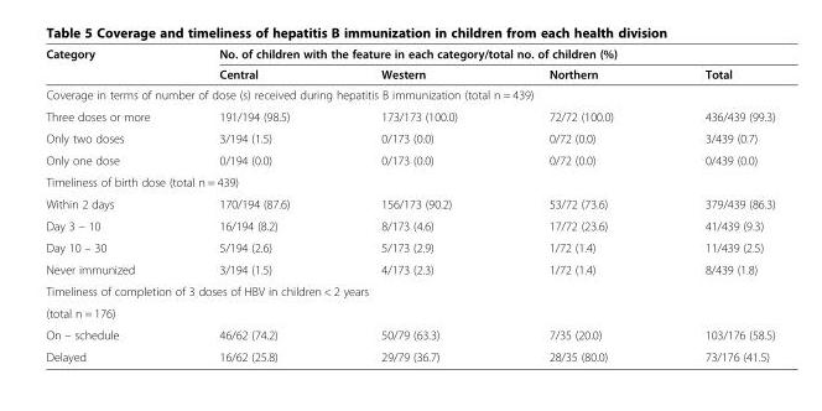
<table><thead><tr><td rowspan="2">Category</td><td colspan="4">No. of children with the feature in each category/total no. of children (%)</td></tr><tr><td>Central</td><td>Western</td><td>Northern</td><td>Total</td></tr></thead><tbody><tr><td colspan="5">Coverage in terms of number of dose (s) received during hepatitis B immunization (total n = 439)</td></tr><tr><td>Three doses or more</td><td>191/194 (98.5)</td><td>173/173 (100.0)</td><td>72/72 (100.0)</td><td>436/439 (99.3)</td></tr><tr><td>Only two doses</td><td>3/194 (1.5)</td><td>0/173 (0.0)</td><td>0/72 (0.0)</td><td>3/439 (0.7)</td></tr><tr><td>Only one dose</td><td>0/194 (0.0)</td><td>0/173 (0.0)</td><td>0/72 (0.0)</td><td>0/439 (0.0)</td></tr><tr><td colspan="5">Timeliness of birth dose (total n = 439)</td></tr><tr><td>Within 2 days</td><td>170/194 (87.6)</td><td>156/173 (90.2)</td><td>53/72 (73.6)</td><td>379/439 (86.3)</td></tr><tr><td>Day 3 – 10</td><td>16/194 (8.2)</td><td>8/173 (4.6)</td><td>17/72 (23.6)</td><td>41/439 (9.3)</td></tr><tr><td>Day 10 – 30</td><td>5/194 (2.6)</td><td>5/173 (2.9)</td><td>1/72 (1.4)</td><td>11/439 (2.5)</td></tr><tr><td>Never immunized</td><td>3/194 (1.5)</td><td>4/173 (2.3)</td><td>1/72 (1.4)</td><td>8/439 (1.8)</td></tr><tr><td colspan="5">Timeliness of completion of 3 doses of HBV in children &lt; 2 years</td></tr><tr><td colspan="5">(total n = 176)</td></tr><tr><td>On – schedule</td><td>46/62 (74.2)</td><td>50/79 (63.3)</td><td>7/35 (20.0)</td><td>103/176 (58.5)</td></tr><tr><td>Delayed</td><td>16/62 (25.8)</td><td>29/79 (36.7)</td><td>28/35 (80.0)</td><td>73/176 (41.5)</td></tr></tbody></table>